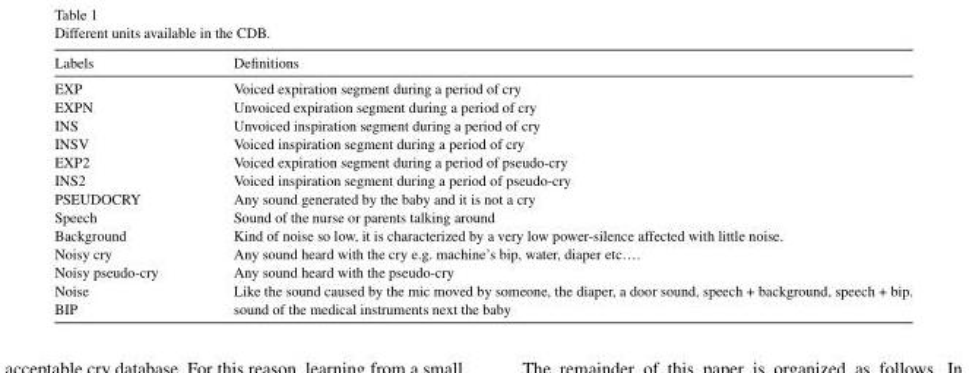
<table><thead><tr><td>Labels</td><td>Definitions</td></tr></thead><tbody><tr><td>EXP</td><td>Voiced expiration segment during a period of cry</td></tr><tr><td>EXPN</td><td>Unvoiced expiration segment during a period of cry</td></tr><tr><td>INS</td><td>Unvoiced inspiration segment during a period of cry</td></tr><tr><td>INSV</td><td>Voiced inspiration segment during a period of cry</td></tr><tr><td>EXP2</td><td>Voiced expiration segment during a period of pseudo-cry</td></tr><tr><td>INS2</td><td>Voiced inspiration segment during a period of pseudo-cry</td></tr><tr><td>PSEUDOCRY</td><td>Any sound generated by the baby and it is not a cry</td></tr><tr><td>Speech</td><td>Sound of the nurse or parents talking around</td></tr><tr><td>Background</td><td>Kind of noise so low, it is characterized by a very low power-silence affected with little noise.</td></tr><tr><td>Noisy cry</td><td>Any sound heard with the cry e.g. machine’s bip, water, diaper etc….</td></tr><tr><td>Noisy pseudo-cry</td><td>Any sound heard with the pseudo-cry</td></tr><tr><td>Noise</td><td>Like the sound caused by the mic moved by someone, the diaper, a door sound, speech + background, speech + bip.</td></tr><tr><td>BIP</td><td>sound of the medical instruments next the baby</td></tr></tbody></table>